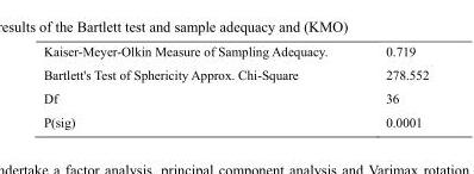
<table><tbody><tr><td>Kaiser-Meyer-Olkin Measure of Sampling Adequacy.</td><td>0.719</td></tr><tr><td>Bartlett&#x27;s Test of Sphericity Approx. Chi-Square</td><td>278.552</td></tr><tr><td>Df</td><td>36</td></tr><tr><td>P(sig)</td><td>0.0001</td></tr></tbody></table>